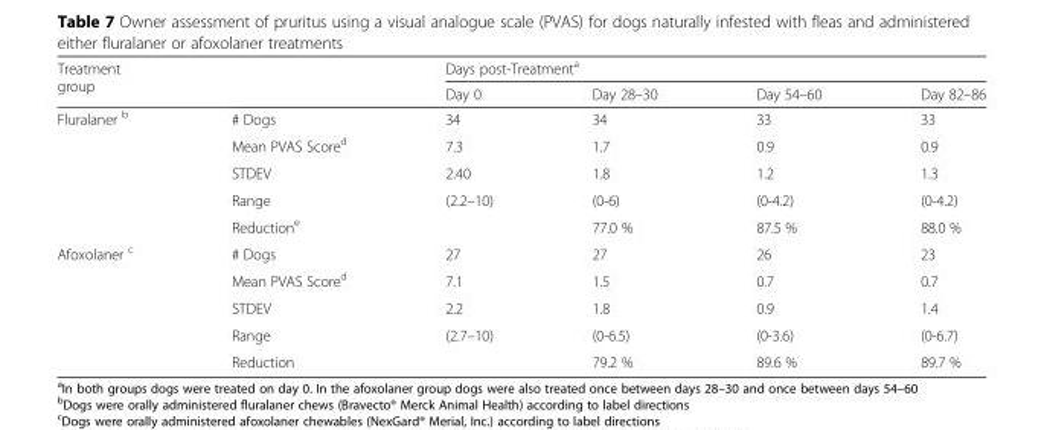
<table><thead><tr><td rowspan="2">Treatment group</td><td rowspan="2"></td><td colspan="4">Days post-Treatment<sup>a</sup></td></tr><tr><td>Day 0</td><td>Day 28–30</td><td>Day 54–60</td><td>Day 82–86</td></tr></thead><tbody><tr><td rowspan="5">Fluralaner <sup>b</sup></td><td># Dogs</td><td>34</td><td>34</td><td>33</td><td>33</td></tr><tr><td>Mean PVAS Score<sup>d</sup></td><td>7.3</td><td>1.7</td><td>0.9</td><td>0.9</td></tr><tr><td>STDEV</td><td>2.40</td><td>1.8</td><td>1.2</td><td>1.3</td></tr><tr><td>Range</td><td>(2.2–10)</td><td>(0-6)</td><td>(0-4.2)</td><td>(0-4.2)</td></tr><tr><td>Reduction<sup>e</sup></td><td></td><td>77.0 %</td><td>87.5 %</td><td>88.0 %</td></tr><tr><td rowspan="5">Afoxolaner <sup>c</sup></td><td># Dogs</td><td>27</td><td>27</td><td>26</td><td>23</td></tr><tr><td>Mean PVAS Score<sup>d</sup></td><td>7.1</td><td>1.5</td><td>0.7</td><td>0.7</td></tr><tr><td>STDEV</td><td>2.2</td><td>1.8</td><td>0.9</td><td>1.4</td></tr><tr><td>Range</td><td>(2.7–10)</td><td>(0-6.5)</td><td>(0-3.6)</td><td>(0-6.7)</td></tr><tr><td>Reduction</td><td></td><td>79.2 %</td><td>89.6 %</td><td>89.7 %</td></tr></tbody></table>